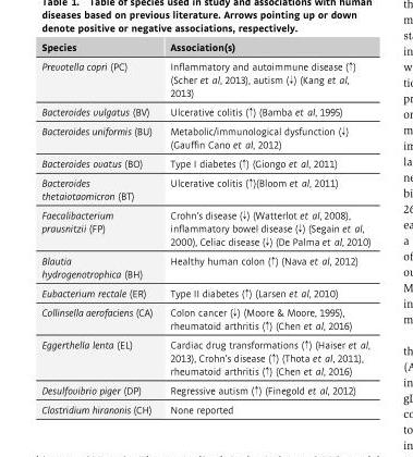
<table><thead><tr><td>Species</td><td>Association(s)</td></tr></thead><tbody><tr><td>Prevotella copri (PC)</td><td>Inflammatory and autoimmune disease (↑) (Scher et al, 2013), autism (↓) (Kang et al, 2013)</td></tr><tr><td>Bacteroides vulgatus (BV)</td><td>Ulcerative colitis (↑) (Bamba et al, 1995)</td></tr><tr><td>Bacteroides uniformis (BU)</td><td>Metabolic/immunological dysfunction (↓) (Gauffin Cano et al, 2012)</td></tr><tr><td>Bacteroides ovatus (BO)</td><td>Type I diabetes (↑) (Giongo et al, 2011)</td></tr><tr><td>Bacteroides thetaiotaomicron (BT)</td><td>Ulcerative colitis (↑)(Bloom et al, 2011)</td></tr><tr><td>Faecalibacterium prausnitzii (FP)</td><td>Crohn’s disease (↓) (Watterlot et al, 2008), inflammatory bowel disease (↓) (Segain et al, 2000), Celiac disease (↓) (De Palma et al, 2010)</td></tr><tr><td>Blautia hydrogenotrophica (BH)</td><td>Healthy human colon (↑) (Nava et al, 2012)</td></tr><tr><td>Eubacterium rectale (ER)</td><td>Type II diabetes (↑) (Larsen et al, 2010)</td></tr><tr><td>Collinsella aerofaciens (CA)</td><td>Colon cancer (↓) (Moore &amp; Moore, 1995), rheumatoid arthritis (↑) (Chen et al, 2016)</td></tr><tr><td>Eggerthella lenta (EL)</td><td>Cardiac drug transformations (↑) (Haiser et al, 2013), Crohn’s disease (↑) (Thota et al, 2011), rheumatoid arthritis (↑) (Chen et al, 2016)</td></tr><tr><td>Desulfovibrio piger (DP)</td><td>Regressive autism (↑) (Finegold et al, 2012)</td></tr><tr><td>Clostridium hiranonis (CH)</td><td>None reported</td></tr></tbody></table>